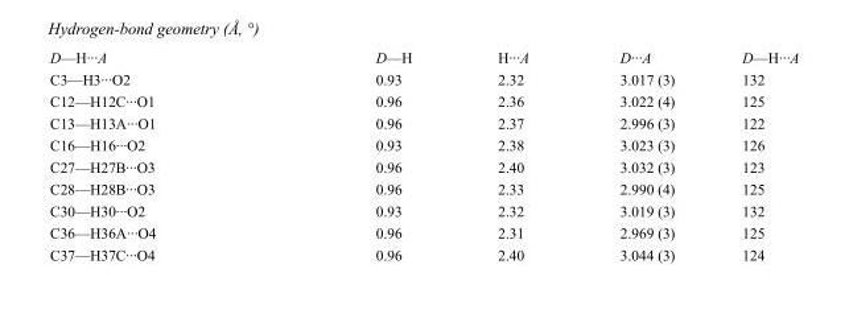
<table><tbody><tr><td>D—H···A</td><td>D—H</td><td>H···A</td><td>D···A</td><td>D—H···A</td></tr><tr><td>C3—H3···O2</td><td>0.93</td><td>2.32</td><td>3.017 (3)</td><td>132</td></tr><tr><td>C12—H12C···O1</td><td>0.96</td><td>2.36</td><td>3.022 (4)</td><td>125</td></tr><tr><td>C13—H13A···O1</td><td>0.96</td><td>2.37</td><td>2.996 (3)</td><td>122</td></tr><tr><td>C16—H16···O2</td><td>0.93</td><td>2.38</td><td>3.023 (3)</td><td>126</td></tr><tr><td>C27—H27B···O3</td><td>0.96</td><td>2.40</td><td>3.032 (3)</td><td>123</td></tr><tr><td>C28—H28B···O3</td><td>0.96</td><td>2.33</td><td>2.990 (4)</td><td>125</td></tr><tr><td>C30—H30···O2</td><td>0.93</td><td>2.32</td><td>3.019 (3)</td><td>132</td></tr><tr><td>C36—H36A···O4</td><td>0.96</td><td>2.31</td><td>2.969 (3)</td><td>125</td></tr><tr><td>C37—H37C···O4</td><td>0.96</td><td>2.40</td><td>3.044 (3)</td><td>124</td></tr></tbody></table>